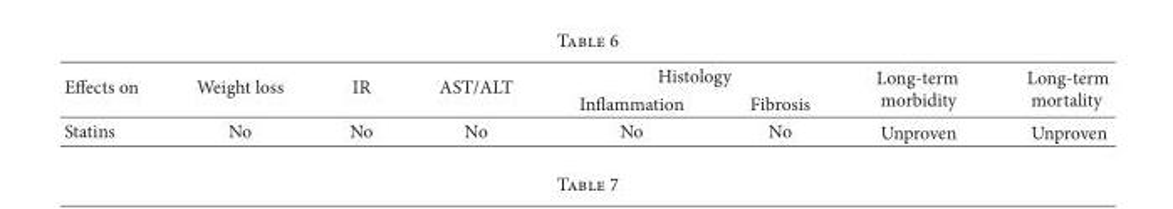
<table><thead><tr><td rowspan="2">Effects on</td><td rowspan="2">Weight loss</td><td rowspan="2">IR</td><td rowspan="2">AST/ALT</td><td colspan="2">Histology</td><td rowspan="2">Long-term morbidity</td><td rowspan="2">Long-term mortality</td></tr><tr><td>Inflammation</td><td>Fibrosis</td></tr></thead><tbody><tr><td>Statins</td><td>No</td><td>No</td><td>No</td><td>No</td><td>No</td><td>Unproven</td><td>Unproven</td></tr></tbody></table>